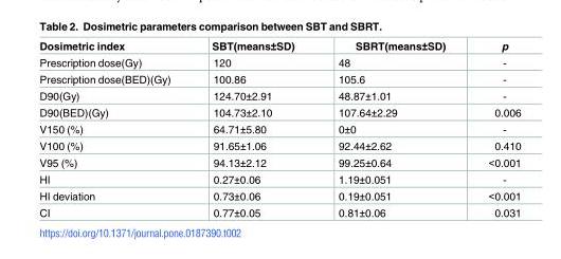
<table><thead><tr><td>Dosimetric index</td><td>SBT(means±SD)</td><td>SBRT(means±SD)</td><td>p</td></tr></thead><tbody><tr><td>Prescription dose(Gy)</td><td>120</td><td>48</td><td>-</td></tr><tr><td>Prescription dose(BED)(Gy)</td><td>100.86</td><td>105.6</td><td>-</td></tr><tr><td>D90(Gy)</td><td>124.70±2.91</td><td>48.87±1.01</td><td>-</td></tr><tr><td>D90(BED)(Gy)</td><td>104.73±2.10</td><td>107.64±2.29</td><td>0.006</td></tr><tr><td>V150 (%)</td><td>64.71±5.80</td><td>0±0</td><td>-</td></tr><tr><td>V100 (%)</td><td>91.65±1.06</td><td>92.44±2.62</td><td>0.410</td></tr><tr><td>V95 (%)</td><td>94.13±2.12</td><td>99.25±0.64</td><td>&lt;0.001</td></tr><tr><td>HI</td><td>0.27±0.06</td><td>1.19±0.051</td><td>-</td></tr><tr><td>HI deviation</td><td>0.73±0.06</td><td>0.19±0.051</td><td>&lt;0.001</td></tr><tr><td>CI</td><td>0.77±0.05</td><td>0.81±0.06</td><td>0.031</td></tr></tbody></table>